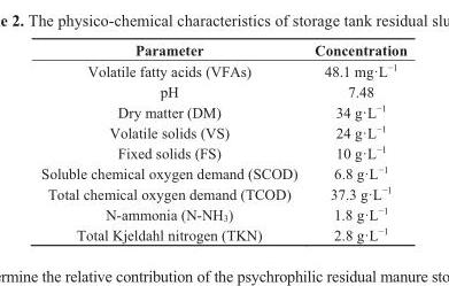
<table><thead><tr><td>Parameter</td><td>Concentration</td></tr></thead><tbody><tr><td>Volatile fatty acids (VFAs)</td><td>48.1 mg·L<sup>−1</sup></td></tr><tr><td>pH</td><td>7.48</td></tr><tr><td>Dry matter (DM)</td><td>34 g·L<sup>−1</sup></td></tr><tr><td>Volatile solids (VS)</td><td>24 g·L<sup>−1</sup></td></tr><tr><td>Fixed solids (FS)</td><td>10 g·L<sup>−1</sup></td></tr><tr><td>Soluble chemical oxygen demand (SCOD)</td><td>6.8 g·L<sup>−1</sup></td></tr><tr><td>Total chemical oxygen demand (TCOD)</td><td>37.3 g·L<sup>−1</sup></td></tr><tr><td>N-ammonia (N-NH<sub>3</sub>)</td><td>1.8 g·L<sup>−1</sup></td></tr><tr><td>Total Kjeldahl nitrogen (TKN)</td><td>2.8 g·L<sup>−1</sup></td></tr></tbody></table>